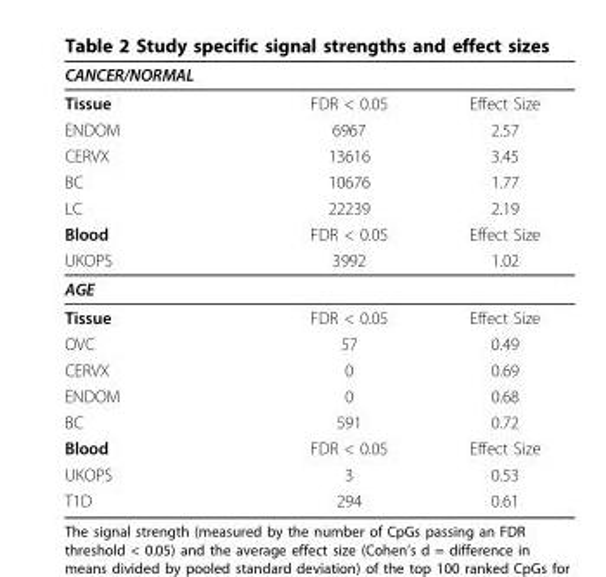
<table><thead><tr><td>CANCER/NORMAL</td><td></td><td></td></tr></thead><tbody><tr><td>Tissue</td><td>FDR &lt; 0.05</td><td>Effect Size</td></tr><tr><td>ENDOM</td><td>6967</td><td>2.57</td></tr><tr><td>CERVX</td><td>13616</td><td>3.45</td></tr><tr><td>BC</td><td>10676</td><td>1.77</td></tr><tr><td>LC</td><td>22239</td><td>2.19</td></tr><tr><td>Blood</td><td>FDR &lt; 0.05</td><td>Effect Size</td></tr><tr><td>UKOPS</td><td>3992</td><td>1.02</td></tr><tr><td colspan="3">AGE</td></tr><tr><td>Tissue</td><td>FDR &lt; 0.05</td><td>Effect Size</td></tr><tr><td>OVC</td><td>57</td><td>0.49</td></tr><tr><td>CERVX</td><td>0</td><td>0.69</td></tr><tr><td>ENDOM</td><td>0</td><td>0.68</td></tr><tr><td>BC</td><td>591</td><td>0.72</td></tr><tr><td>Blood</td><td>FDR &lt; 0.05</td><td>Effect Size</td></tr><tr><td>UKOPS</td><td>3</td><td>0.53</td></tr><tr><td>T1D</td><td>294</td><td>0.61</td></tr></tbody></table>